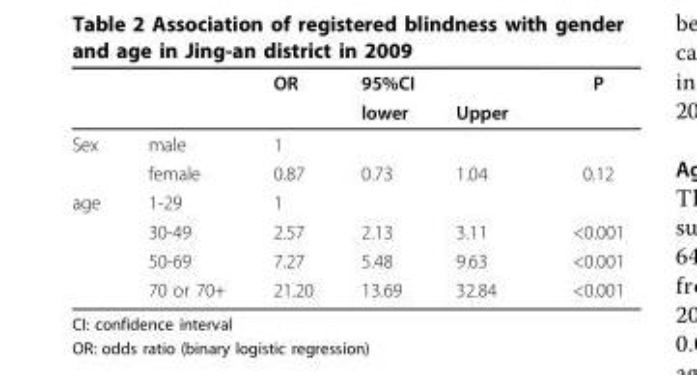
<table><thead><tr><td rowspan="2"></td><td rowspan="2"></td><td rowspan="2">OR</td><td colspan="2">95%CI</td><td rowspan="2">P</td></tr><tr><td>lower</td><td>Upper</td></tr></thead><tbody><tr><td rowspan="2">Sex</td><td>male</td><td>1</td><td></td><td></td><td></td></tr><tr><td>female</td><td>0.87</td><td>0.73</td><td>1.04</td><td>0.12</td></tr><tr><td rowspan="4">age</td><td>1-29</td><td>1</td><td></td><td></td><td></td></tr><tr><td>30-49</td><td>2.57</td><td>2.13</td><td>3.11</td><td>&lt;0.001</td></tr><tr><td>50-69</td><td>7.27</td><td>5.48</td><td>9.63</td><td>&lt;0.001</td></tr><tr><td>70 or 70+</td><td>21.20</td><td>13.69</td><td>32.84</td><td>&lt;0.001</td></tr></tbody></table>